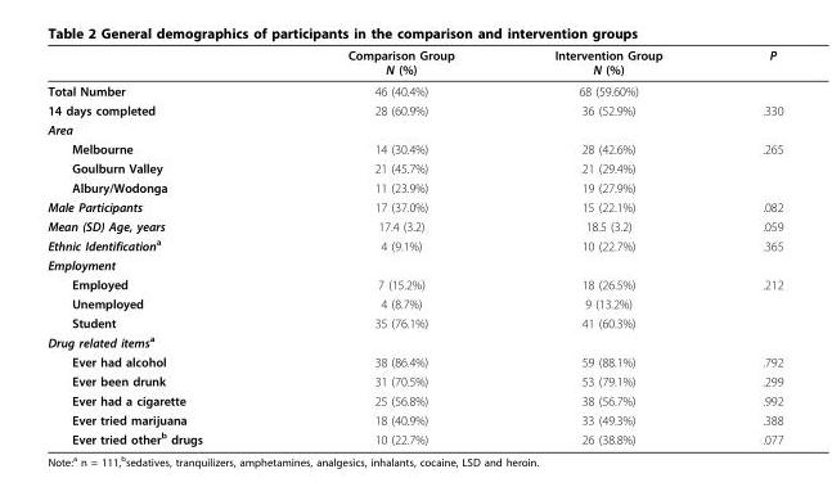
<table><thead><tr><td></td><td>Comparison Group N (%)</td><td>Intervention Group N (%)</td><td>P</td></tr></thead><tbody><tr><td>Total Number</td><td>46 (40.4%)</td><td>68 (59.60%)</td><td></td></tr><tr><td>14 days completed</td><td>28 (60.9%)</td><td>36 (52.9%)</td><td>.330</td></tr><tr><td colspan="4">Area</td></tr><tr><td>Melbourne</td><td>14 (30.4%)</td><td>28 (42.6%)</td><td>.265</td></tr><tr><td>Goulburn Valley</td><td>21 (45.7%)</td><td>21 (29.4%)</td><td></td></tr><tr><td>Albury/Wodonga</td><td>11 (23.9%)</td><td>19 (27.9%)</td><td></td></tr><tr><td>Male Participants</td><td>17 (37.0%)</td><td>15 (22.1%)</td><td>.082</td></tr><tr><td>Mean (SD) Age, years</td><td>17.4 (3.2)</td><td>18.5 (3.2)</td><td>.059</td></tr><tr><td>Ethnic Identification<sup>a</sup></td><td>4 (9.1%)</td><td>10 (22.7%)</td><td>.365</td></tr><tr><td colspan="4">Employment</td></tr><tr><td>Employed</td><td>7 (15.2%)</td><td>18 (26.5%)</td><td>.212</td></tr><tr><td>Unemployed</td><td>4 (8.7%)</td><td>9 (13.2%)</td><td></td></tr><tr><td>Student</td><td>35 (76.1%)</td><td>41 (60.3%)</td><td></td></tr><tr><td colspan="4">Drug related items<sup>a</sup></td></tr><tr><td>Ever had alcohol</td><td>38 (86.4%)</td><td>59 (88.1%)</td><td>.792</td></tr><tr><td>Ever been drunk</td><td>31 (70.5%)</td><td>53 (79.1%)</td><td>.299</td></tr><tr><td>Ever had a cigarette</td><td>25 (56.8%)</td><td>38 (56.7%)</td><td>.992</td></tr><tr><td>Ever tried marijuana</td><td>18 (40.9%)</td><td>33 (49.3%)</td><td>.388</td></tr><tr><td>Ever tried other<sup>b</sup> drugs</td><td>10 (22.7%)</td><td>26 (38.8%)</td><td>.077</td></tr></tbody></table>